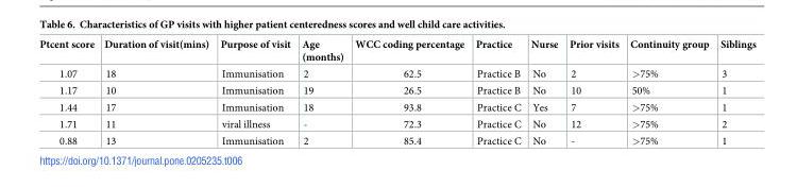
<table><thead><tr><td>Ptcent score</td><td>Duration of visit(mins)</td><td>Purpose of visit</td><td>Age (months)</td><td>WCC coding percentage</td><td>Practice</td><td>Nurse</td><td>Prior visits</td><td>Continuity group</td><td>Siblings</td></tr></thead><tbody><tr><td>1.07</td><td>18</td><td>Immunisation</td><td>2</td><td>62.5</td><td>Practice B</td><td>No</td><td>2</td><td>&gt;75%</td><td>3</td></tr><tr><td>1.17</td><td>10</td><td>Immunisation</td><td>19</td><td>26.5</td><td>Practice B</td><td>No</td><td>10</td><td>50%</td><td>1</td></tr><tr><td>1.44</td><td>17</td><td>Immunisation</td><td>18</td><td>93.8</td><td>Practice C</td><td>Yes</td><td>7</td><td>&gt;75%</td><td>1</td></tr><tr><td>1.71</td><td>11</td><td>viral illness</td><td>-</td><td>72.3</td><td>Practice C</td><td>No</td><td>12</td><td>&gt;75%</td><td>2</td></tr><tr><td>0.88</td><td>13</td><td>Immunisation</td><td>2</td><td>85.4</td><td>Practice C</td><td>No</td><td>-</td><td>&gt;75%</td><td>1</td></tr></tbody></table>